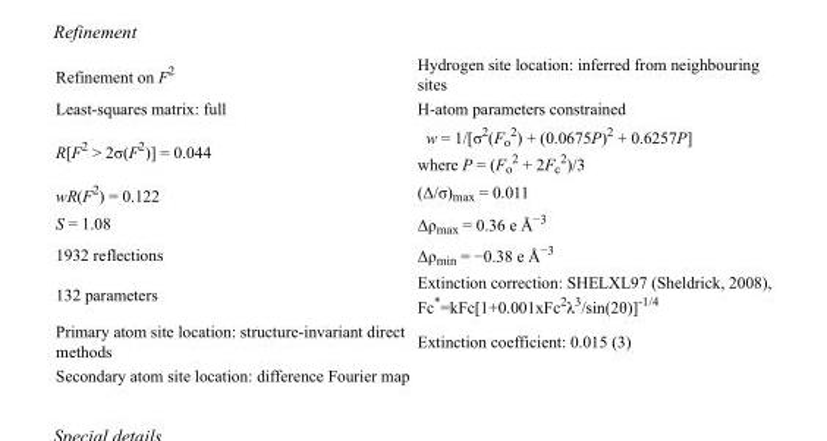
<table><tbody><tr><td>Refinement on F<sup>2</sup></td><td>Hydrogen site location: inferred from neighbouring sites</td></tr><tr><td>Least-squares matrix: full</td><td>H-atom parameters constrained</td></tr><tr><td>R[F<sup>2</sup> &gt; 2σ(F<sup>2</sup>)] = 0.044</td><td>w = 1/[σ<sup>2</sup>(F<sub>o</sub> <sup>2</sup>) + (0.0675P)<sup>2</sup> + 0.6257P] where P = (F<sub>o</sub> <sup>2</sup> + 2F<sub>c</sub> <sup>2</sup>)/3</td></tr><tr><td>wR(F<sup>2</sup>) = 0.122</td><td>(Δ/σ)<sub>max</sub> = 0.011</td></tr><tr><td>S = 1.08</td><td>Δρ<sub>max</sub> = 0.36 e Å<sup>−3</sup></td></tr><tr><td>1932 reflections</td><td>Δρ<sub>min</sub> = −0.38 e Å<sup>−3</sup></td></tr><tr><td>132 parameters</td><td>Extinction correction: SHELXL97 (Sheldrick, 2008), Fc*=kFc[1+0.001xFc<sup>2</sup>λ<sup>3</sup>/sin(2θ)]<sup>-1/4</sup></td></tr><tr><td>Primary atom site location: structure-invariant direct methods</td><td>Extinction coefficient: 0.015 (3)</td></tr><tr><td>Secondary atom site location: difference Fourier map</td><td></td></tr></tbody></table>